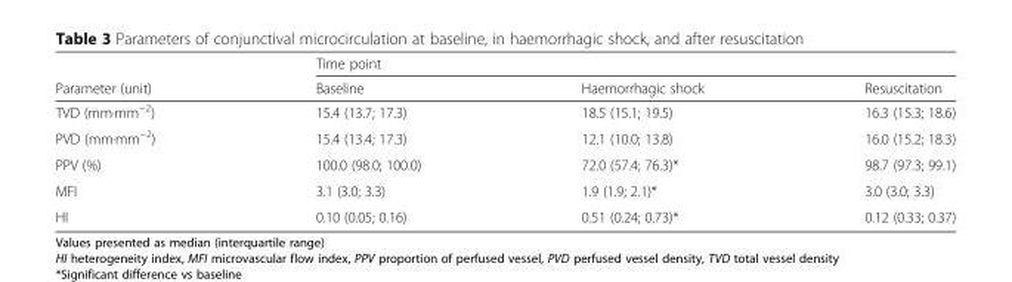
<table><thead><tr><td rowspan="2">Parameter (unit)</td><td colspan="3">Time point</td></tr><tr><td>Baseline</td><td>Haemorrhagic shock</td><td>Resuscitation</td></tr></thead><tbody><tr><td>TVD (mm∙mm<sup>−2</sup>)</td><td>15.4 (13.7; 17.3)</td><td>18.5 (15.1; 19.5)</td><td>16.3 (15.3; 18.6)</td></tr><tr><td>PVD (mm∙mm<sup>−2</sup>)</td><td>15.4 (13.4; 17.3)</td><td>12.1 (10.0; 13.8)</td><td>16.0 (15.2; 18.3)</td></tr><tr><td>PPV (%)</td><td>100.0 (98.0; 100.0)</td><td>72.0 (57.4; 76.3)*</td><td>98.7 (97.3; 99.1)</td></tr><tr><td>MFI</td><td>3.1 (3.0; 3.3)</td><td>1.9 (1.9; 2.1)*</td><td>3.0 (3.0; 3.3)</td></tr><tr><td>HI</td><td>0.10 (0.05; 0.16)</td><td>0.51 (0.24; 0.73)*</td><td>0.12 (0.33; 0.37)</td></tr></tbody></table>